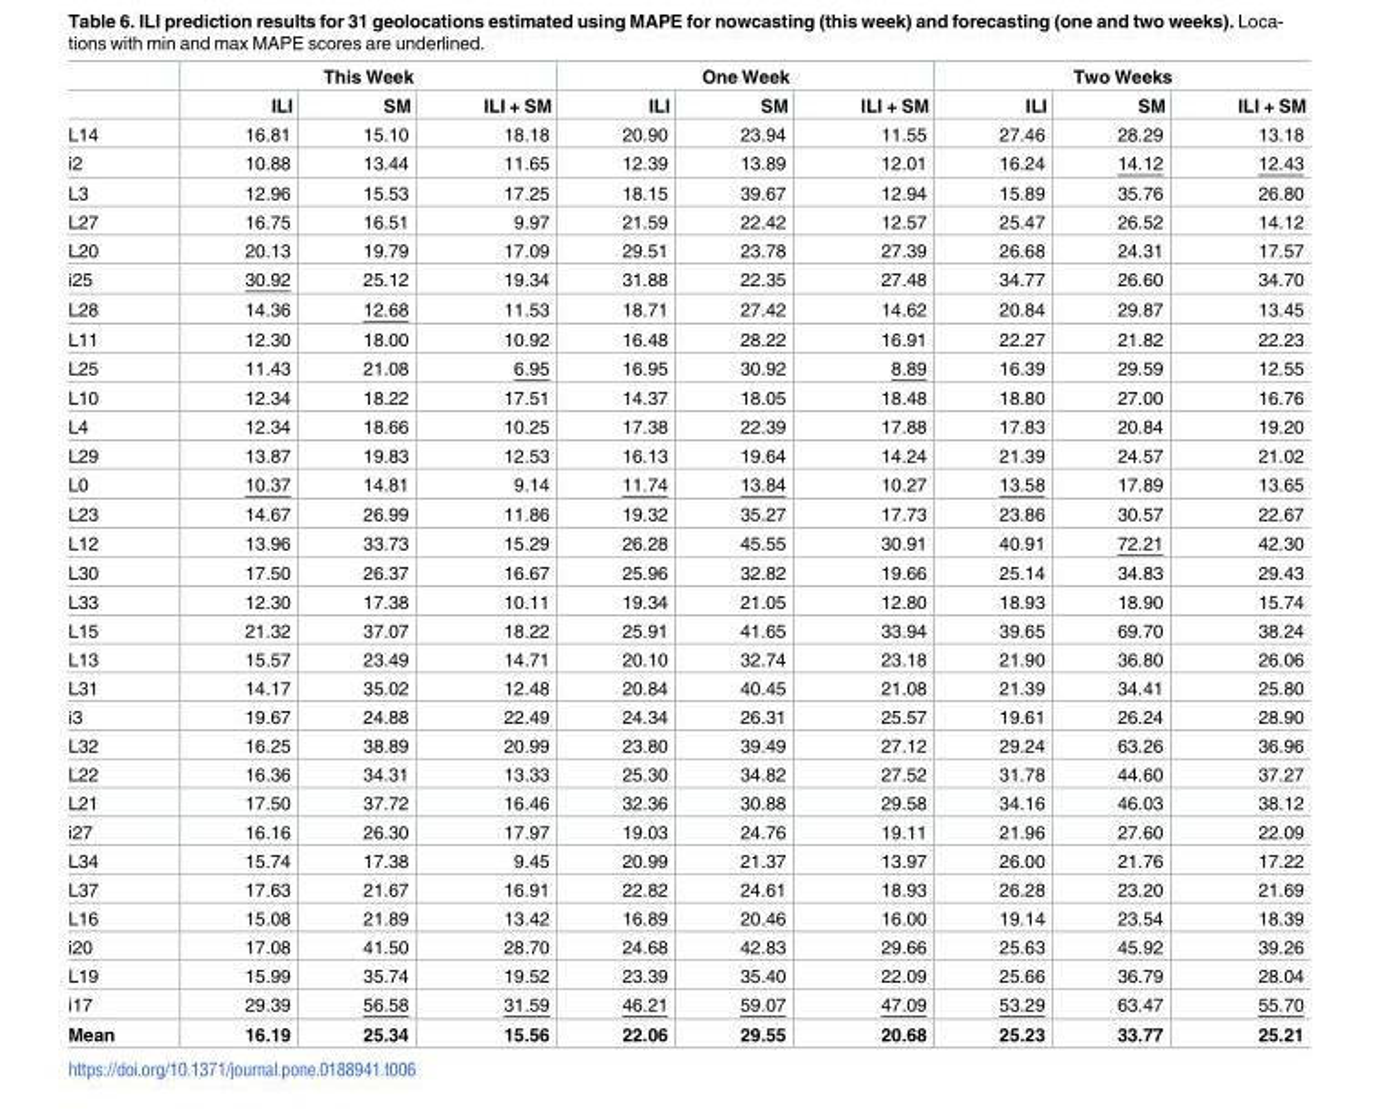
<table><thead><tr><td rowspan="2"></td><td colspan="3">This Week</td><td colspan="3">One Week</td><td colspan="3">Two Weeks</td></tr><tr><td>ILI</td><td>SM</td><td>ILI + SM</td><td>ILI</td><td>SM</td><td>ILI + SM</td><td>ILI</td><td>SM</td><td>ILI + SM</td></tr></thead><tbody><tr><td>L14</td><td>16.81</td><td>15.10</td><td>18.18</td><td>20.90</td><td>23.94</td><td>11.55</td><td>27.46</td><td>28.29</td><td>13.18</td></tr><tr><td>i2</td><td>10.88</td><td>13.44</td><td>11.65</td><td>12.39</td><td>13.89</td><td>12.01</td><td>16.24</td><td>14.12</td><td>12.43</td></tr><tr><td>L3</td><td>12.96</td><td>15.53</td><td>17.25</td><td>18.15</td><td>39.67</td><td>12.94</td><td>15.89</td><td>35.76</td><td>26.80</td></tr><tr><td>L27</td><td>16.75</td><td>16.51</td><td>9.97</td><td>21.59</td><td>22.42</td><td>12.57</td><td>25.47</td><td>26.52</td><td>14.12</td></tr><tr><td>L20</td><td>20.13</td><td>19.79</td><td>17.09</td><td>29.51</td><td>23.78</td><td>27.39</td><td>26.68</td><td>24.31</td><td>17.57</td></tr><tr><td>i25</td><td>30.92</td><td>25.12</td><td>19.34</td><td>31.88</td><td>22.35</td><td>27.48</td><td>34.77</td><td>26.60</td><td>34.70</td></tr><tr><td>L28</td><td>14.36</td><td>12.68</td><td>11.53</td><td>18.71</td><td>27.42</td><td>14.62</td><td>20.84</td><td>29.87</td><td>13.45</td></tr><tr><td>L11</td><td>12.30</td><td>18.00</td><td>10.92</td><td>16.48</td><td>28.22</td><td>16.91</td><td>22.27</td><td>21.82</td><td>22.23</td></tr><tr><td>L25</td><td>11.43</td><td>21.08</td><td>6.95</td><td>16.95</td><td>30.92</td><td>8.89</td><td>16.39</td><td>29.59</td><td>12.55</td></tr><tr><td>L10</td><td>12.34</td><td>18.22</td><td>17.51</td><td>14.37</td><td>18.05</td><td>18.48</td><td>18.80</td><td>27.00</td><td>16.76</td></tr><tr><td>L4</td><td>12.34</td><td>18.66</td><td>10.25</td><td>17.38</td><td>22.39</td><td>17.88</td><td>17.83</td><td>20.84</td><td>19.20</td></tr><tr><td>L29</td><td>13.87</td><td>19.83</td><td>12.53</td><td>16.13</td><td>19.64</td><td>14.24</td><td>21.39</td><td>24.57</td><td>21.02</td></tr><tr><td>L0</td><td>10.37</td><td>14.81</td><td>9.14</td><td>11.74</td><td>13.84</td><td>10.27</td><td>13.58</td><td>17.89</td><td>13.65</td></tr><tr><td>L23</td><td>14.67</td><td>26.99</td><td>11.86</td><td>19.32</td><td>35.27</td><td>17.73</td><td>23.86</td><td>30.57</td><td>22.67</td></tr><tr><td>L12</td><td>13.96</td><td>33.73</td><td>15.29</td><td>26.28</td><td>45.55</td><td>30.91</td><td>40.91</td><td>72.21</td><td>42.30</td></tr><tr><td>L30</td><td>17.50</td><td>26.37</td><td>16.67</td><td>25.96</td><td>32.82</td><td>19.66</td><td>25.14</td><td>34.83</td><td>29.43</td></tr><tr><td>L33</td><td>12.30</td><td>17.38</td><td>10.11</td><td>19.34</td><td>21.05</td><td>12.80</td><td>18.93</td><td>18.90</td><td>15.74</td></tr><tr><td>L15</td><td>21.32</td><td>37.07</td><td>18.22</td><td>25.91</td><td>41.65</td><td>33.94</td><td>39.65</td><td>69.70</td><td>38.24</td></tr><tr><td>L13</td><td>15.57</td><td>23.49</td><td>14.71</td><td>20.10</td><td>32.74</td><td>23.18</td><td>21.90</td><td>36.80</td><td>26.06</td></tr><tr><td>L31</td><td>14.17</td><td>35.02</td><td>12.48</td><td>20.84</td><td>40.45</td><td>21.08</td><td>21.39</td><td>34.41</td><td>25.80</td></tr><tr><td>i3</td><td>19.67</td><td>24.88</td><td>22.49</td><td>24.34</td><td>26.31</td><td>25.57</td><td>19.61</td><td>26.24</td><td>28.90</td></tr><tr><td>L32</td><td>16.25</td><td>38.89</td><td>20.99</td><td>23.80</td><td>39.49</td><td>27.12</td><td>29.24</td><td>63.26</td><td>36.96</td></tr><tr><td>L22</td><td>16.36</td><td>34.31</td><td>13.33</td><td>25.30</td><td>34.82</td><td>27.52</td><td>31.78</td><td>44.60</td><td>37.27</td></tr><tr><td>L21</td><td>17.50</td><td>37.72</td><td>16.46</td><td>32.36</td><td>30.88</td><td>29.58</td><td>34.16</td><td>46.03</td><td>38.12</td></tr><tr><td>i27</td><td>16.16</td><td>26.30</td><td>17.97</td><td>19.03</td><td>24.76</td><td>19.11</td><td>21.96</td><td>27.60</td><td>22.09</td></tr><tr><td>L34</td><td>15.74</td><td>17.38</td><td>9.45</td><td>20.99</td><td>21.37</td><td>13.97</td><td>26.00</td><td>21.76</td><td>17.22</td></tr><tr><td>L37</td><td>17.63</td><td>21.67</td><td>16.91</td><td>22.82</td><td>24.61</td><td>18.93</td><td>26.28</td><td>23.20</td><td>21.69</td></tr><tr><td>L16</td><td>15.08</td><td>21.89</td><td>13.42</td><td>16.89</td><td>20.46</td><td>16.00</td><td>19.14</td><td>23.54</td><td>18.39</td></tr><tr><td>i20</td><td>17.08</td><td>41.50</td><td>28.70</td><td>24.68</td><td>42.83</td><td>29.66</td><td>25.63</td><td>45.92</td><td>39.26</td></tr><tr><td>L19</td><td>15.99</td><td>35.74</td><td>19.52</td><td>23.39</td><td>35.40</td><td>22.09</td><td>25.66</td><td>36.79</td><td>28.04</td></tr><tr><td>i17</td><td>29.39</td><td>56.58</td><td>31.59</td><td>46.21</td><td>59.07</td><td>47.09</td><td>53.29</td><td>63.47</td><td>55.70</td></tr><tr><td>Mean</td><td>16.19</td><td>25.34</td><td>15.56</td><td>22.06</td><td>29.55</td><td>20.68</td><td>25.23</td><td>33.77</td><td>25.21</td></tr></tbody></table>